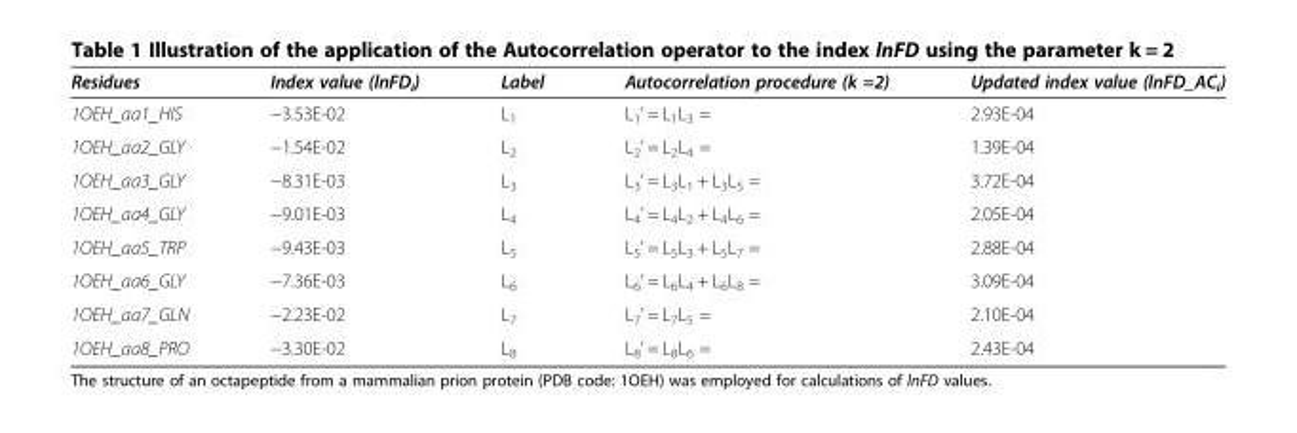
<table><thead><tr><td>Residues</td><td>Index value (lnFD<sub>i</sub>)</td><td>Label</td><td>Autocorrelation procedure (k =2)</td><td>Updated index value (lnFD_AC<sub>i</sub>)</td></tr></thead><tbody><tr><td>1OEH_aa1_HIS</td><td>−3.53E-02</td><td>L<sub>1</sub></td><td>L<sub>1</sub>’ = L<sub>1</sub>L<sub>3</sub> =</td><td>2.93E-04</td></tr><tr><td>1OEH_aa2_GLY</td><td>−1.54E-02</td><td>L<sub>2</sub></td><td>L<sub>2</sub>’ = L<sub>2</sub>L<sub>4</sub> =</td><td>1.39E-04</td></tr><tr><td>1OEH_aa3_GLY</td><td>−8.31E-03</td><td>L<sub>3</sub></td><td>L<sub>3</sub>’ = L<sub>3</sub>L<sub>1</sub> + L<sub>3</sub>L<sub>5</sub> =</td><td>3.72E-04</td></tr><tr><td>1OEH_aa4_GLY</td><td>−9.01E-03</td><td>L<sub>4</sub></td><td>L<sub>4</sub>’ = L<sub>4</sub>L<sub>2</sub> + L<sub>4</sub>L<sub>6</sub> =</td><td>2.05E-04</td></tr><tr><td>1OEH_aa5_TRP</td><td>−9.43E-03</td><td>L<sub>5</sub></td><td>L<sub>5</sub>’ = L<sub>5</sub>L<sub>3</sub> + L<sub>5</sub>L<sub>7</sub> =</td><td>2.88E-04</td></tr><tr><td>1OEH_aa6_GLY</td><td>−7.36E-03</td><td>L<sub>6</sub></td><td>L<sub>6</sub>’ = L<sub>6</sub>L<sub>4</sub> + L<sub>6</sub>L<sub>8</sub> =</td><td>3.09E-04</td></tr><tr><td>1OEH_aa7_GLN</td><td>−2.23E-02</td><td>L<sub>7</sub></td><td>L<sub>7</sub>’ = L<sub>7</sub>L<sub>5</sub> =</td><td>2.10E-04</td></tr><tr><td>1OEH_aa8_PRO</td><td>−3.30E-02</td><td>L<sub>8</sub></td><td>L<sub>8</sub>’ = L<sub>8</sub>L<sub>6</sub> =</td><td>2.43E-04</td></tr></tbody></table>